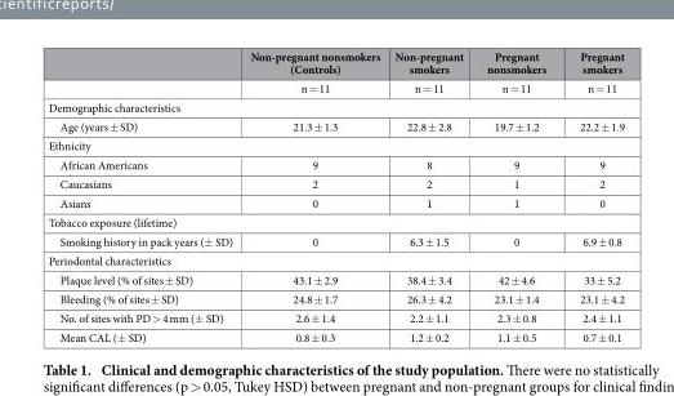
<table><thead><tr><td></td><td>Non-pregnant nonsmokers (Controls)</td><td>Non-pregnant smokers</td><td>Pregnant nonsmokers</td><td>Pregnant smokers</td></tr></thead><tbody><tr><td></td><td>n = 11</td><td>n = 11</td><td>n = 11</td><td>n = 11</td></tr><tr><td colspan="5">Demographic characteristics</td></tr><tr><td>Age (years ± SD)</td><td>21.3 ± 1.3</td><td>22.8 ± 2.8</td><td>19.7 ± 1.2</td><td>22.2 ± 1.9</td></tr><tr><td colspan="5">Ethnicity</td></tr><tr><td>African Americans</td><td>9</td><td>8</td><td>9</td><td>9</td></tr><tr><td>Caucasians</td><td>2</td><td>2</td><td>1</td><td>2</td></tr><tr><td>Asians</td><td>0</td><td>1</td><td>1</td><td>0</td></tr><tr><td colspan="5">Tobacco exposure (lifetime)</td></tr><tr><td>Smoking history in pack years (± SD)</td><td>0</td><td>6.3 ± 1.5</td><td>0</td><td>6.9 ± 0.8</td></tr><tr><td colspan="5">Periodontal characteristics</td></tr><tr><td>Plaque level (% of sites ± SD)</td><td>43.1 ± 2.9</td><td>38.4 ± 3.4</td><td>42 ± 4.6</td><td>33 ± 5.2</td></tr><tr><td>Bleeding (% of sites ± SD)</td><td>24.8 ± 1.7</td><td>26.3 ± 4.2</td><td>23.1 ± 1.4</td><td>23.1 ± 4.2</td></tr><tr><td>No. of sites with PD &gt; 4 mm (± SD)</td><td>2.6 ± 1.4</td><td>2.2 ± 1.1</td><td>2.3 ± 0.8</td><td>2.4 ± 1.1</td></tr><tr><td>Mean CAL (± SD)</td><td>0.8 ± 0.3</td><td>1.2 ± 0.2</td><td>1.1 ± 0.5</td><td>0.7 ± 0.1</td></tr></tbody></table>